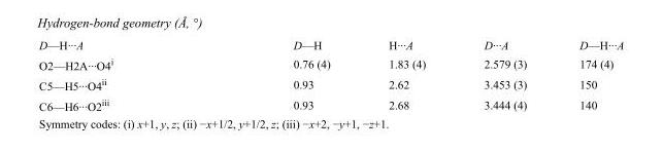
<table><tbody><tr><td>D—H···A</td><td>D—H</td><td>H···A</td><td>D···A</td><td>D—H···A</td></tr><tr><td>O2—H2A···O4<sup>i</sup></td><td>0.76 (4)</td><td>1.83 (4)</td><td>2.579 (3)</td><td>174 (4)</td></tr><tr><td>C5—H5···O4<sup>ii</sup></td><td>0.93</td><td>2.62</td><td>3.453 (3)</td><td>150</td></tr><tr><td>C6—H6···O2<sup>iii</sup></td><td>0.93</td><td>2.68</td><td>3.444 (4)</td><td>140</td></tr></tbody></table>